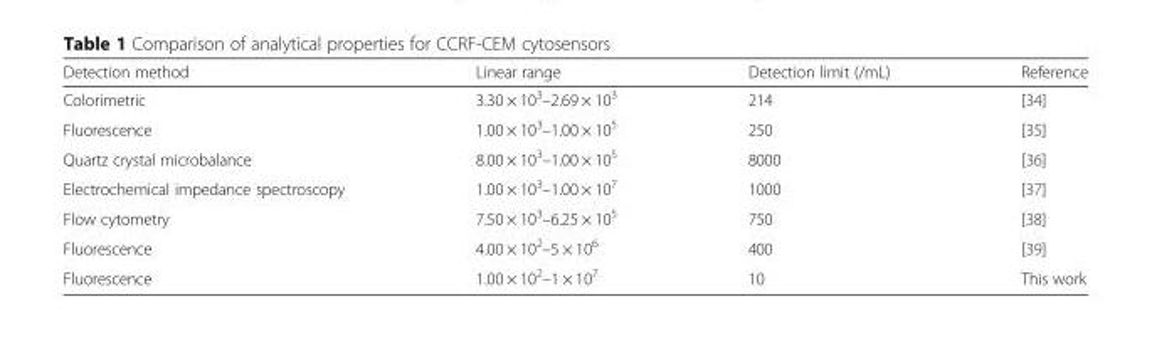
<table><thead><tr><td>Detection method</td><td>Linear range</td><td>Detection limit (/mL)</td><td>Reference</td></tr></thead><tbody><tr><td>Colorimetric</td><td>3.30 × 10<sup>3</sup>–2.69 × 10<sup>3</sup></td><td>214</td><td>[34]</td></tr><tr><td>Fluorescence</td><td>1.00 × 10<sup>3</sup>–1.00 × 10<sup>5</sup></td><td>250</td><td>[35]</td></tr><tr><td>Quartz crystal microbalance</td><td>8.00 × 10<sup>3</sup>–1.00 × 10<sup>5</sup></td><td>8000</td><td>[36]</td></tr><tr><td>Electrochemical impedance spectroscopy</td><td>1.00 × 10<sup>3</sup>–1.00 × 10<sup>7</sup></td><td>1000</td><td>[37]</td></tr><tr><td>Flow cytometry</td><td>7.50 × 10<sup>3</sup>–6.25 × 10<sup>5</sup></td><td>750</td><td>[38]</td></tr><tr><td>Fluorescence</td><td>4.00 × 10<sup>2</sup>–5 × 10<sup>6</sup></td><td>400</td><td>[39]</td></tr><tr><td>Fluorescence</td><td>1.00 × 10<sup>2</sup>–1 × 10<sup>7</sup></td><td>10</td><td>This work</td></tr></tbody></table>